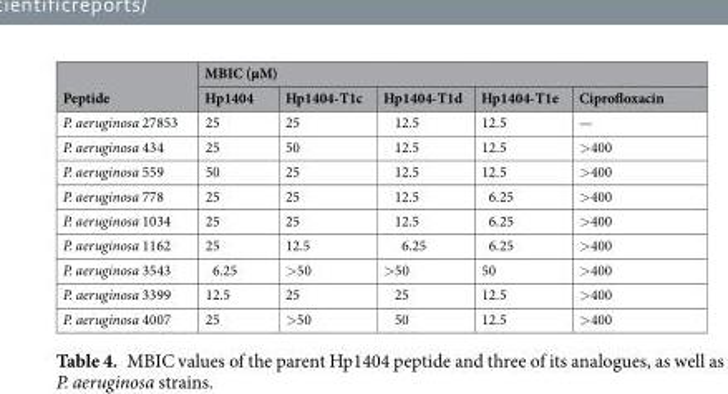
<table><thead><tr><td rowspan="2">Peptide</td><td colspan="5">MBIC (µM)</td></tr><tr><td>Hp1404</td><td>Hp1404-T1c</td><td>Hp1404-T1d</td><td>Hp1404-T1e</td><td>Ciprofloxacin</td></tr></thead><tbody><tr><td>P. aeruginosa 27853</td><td>25</td><td>25</td><td>12.5</td><td>12.5</td><td>—</td></tr><tr><td>P. aeruginosa 434</td><td>25</td><td>50</td><td>12.5</td><td>12.5</td><td>&gt;400</td></tr><tr><td>P. aeruginosa 559</td><td>50</td><td>25</td><td>12.5</td><td>12.5</td><td>&gt;400</td></tr><tr><td>P. aeruginosa 778</td><td>25</td><td>25</td><td>12.5</td><td>6.25</td><td>&gt;400</td></tr><tr><td>P. aeruginosa 1034</td><td>25</td><td>25</td><td>12.5</td><td>6.25</td><td>&gt;400</td></tr><tr><td>P. aeruginosa 1162</td><td>25</td><td>12.5</td><td>6.25</td><td>6.25</td><td>&gt;400</td></tr><tr><td>P. aeruginosa 3543</td><td>6.25</td><td>&gt;50</td><td>&gt;50</td><td>50</td><td>&gt;400</td></tr><tr><td>P. aeruginosa 3399</td><td>12.5</td><td>25</td><td>25</td><td>12.5</td><td>&gt;400</td></tr><tr><td>P. aeruginosa 4007</td><td>25</td><td>&gt;50</td><td>50</td><td>12.5</td><td>&gt;400</td></tr></tbody></table>